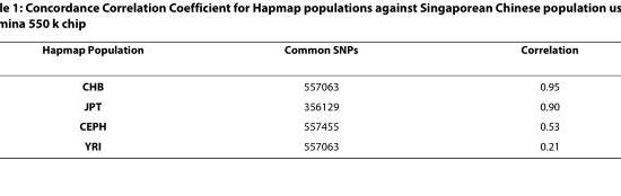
<table><thead><tr><td>Hapmap Population</td><td>Common SNPs</td><td>Correlation</td></tr></thead><tbody><tr><td>CHB</td><td>557063</td><td>0.95</td></tr><tr><td>JPT</td><td>356129</td><td>0.90</td></tr><tr><td>CEPH</td><td>557455</td><td>0.53</td></tr><tr><td>YRI</td><td>557063</td><td>0.21</td></tr></tbody></table>